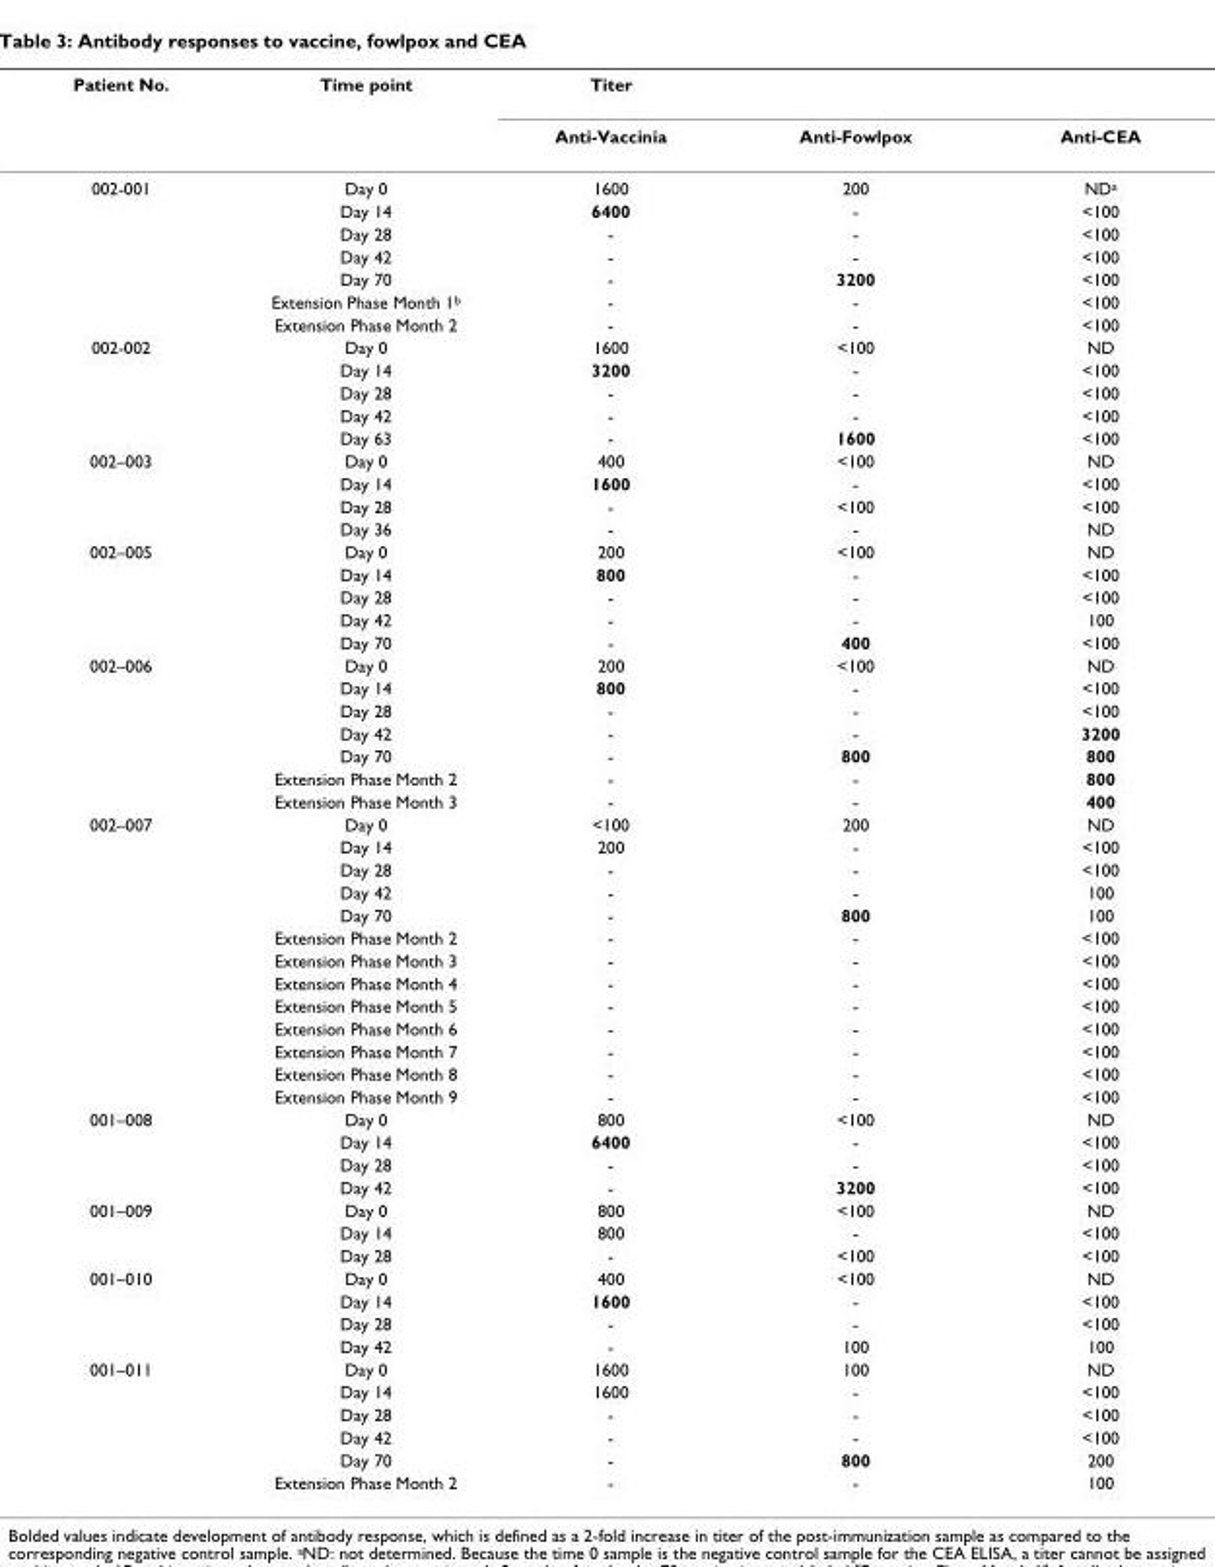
<table><thead><tr><td rowspan="2">Patient No.</td><td rowspan="2">Time point</td><td rowspan="2">Titer Anti-Vaccinia</td><td rowspan="2">Anti-Fowlpox</td><td rowspan="2">Anti-CEA</td></tr><tr></tr></thead><tbody><tr><td rowspan="7">002-001</td><td>Day 0</td><td>1600</td><td>200</td><td>ND<sup>a</sup></td></tr><tr><td>Day 14</td><td>6400</td><td>-</td><td>&lt;100</td></tr><tr><td>Day 28</td><td>-</td><td>-</td><td>&lt;100</td></tr><tr><td>Day 42</td><td>-</td><td>-</td><td>&lt;100</td></tr><tr><td>Day 70</td><td>-</td><td>3200</td><td>&lt;100</td></tr><tr><td>Extension Phase Month 1<sup>b</sup></td><td>-</td><td>-</td><td>&lt;100</td></tr><tr><td>Extension Phase Month 2</td><td>-</td><td>-</td><td>&lt;100</td></tr><tr><td rowspan="5">002-002</td><td>Day 0</td><td>1600</td><td>&lt;100</td><td>ND</td></tr><tr><td>Day 14</td><td>3200</td><td>-</td><td>&lt;100</td></tr><tr><td>Day 28</td><td>-</td><td>-</td><td>&lt;100</td></tr><tr><td>Day 42</td><td>-</td><td>-</td><td>&lt;100</td></tr><tr><td>Day 63</td><td>-</td><td>1600</td><td>&lt;100</td></tr><tr><td rowspan="4">002–003</td><td>Day 0</td><td>400</td><td>&lt;100</td><td>ND</td></tr><tr><td>Day 14</td><td>1600</td><td>-</td><td>&lt;100</td></tr><tr><td>Day 28</td><td>-</td><td>&lt;100</td><td>&lt;100</td></tr><tr><td>Day 36</td><td>-</td><td>-</td><td>ND</td></tr><tr><td rowspan="5">002–005</td><td>Day 0</td><td>200</td><td>&lt;100</td><td>ND</td></tr><tr><td>Day 14</td><td>800</td><td>-</td><td>&lt;100</td></tr><tr><td>Day 28</td><td>-</td><td>-</td><td>&lt;100</td></tr><tr><td>Day 42</td><td>-</td><td>-</td><td>100</td></tr><tr><td>Day 70</td><td>-</td><td>400</td><td>&lt;100</td></tr><tr><td rowspan="7">002–006</td><td>Day 0</td><td>200</td><td>&lt;100</td><td>ND</td></tr><tr><td>Day 14</td><td>800</td><td>-</td><td>&lt;100</td></tr><tr><td>Day 28</td><td>-</td><td>-</td><td>&lt;100</td></tr><tr><td>Day 42</td><td>-</td><td>-</td><td>3200</td></tr><tr><td>Day 70</td><td>-</td><td>800</td><td>800</td></tr><tr><td>Extension Phase Month 2</td><td>-</td><td>-</td><td>800</td></tr><tr><td>Extension Phase Month 3</td><td>-</td><td>-</td><td>400</td></tr><tr><td rowspan="13">002–007</td><td>Day 0</td><td>&lt;100</td><td>200</td><td>ND</td></tr><tr><td>Day 14</td><td>200</td><td>-</td><td>&lt;100</td></tr><tr><td>Day 28</td><td>-</td><td>-</td><td>&lt;100</td></tr><tr><td>Day 42</td><td>-</td><td>-</td><td>100</td></tr><tr><td>Day 70</td><td>-</td><td>800</td><td>100</td></tr><tr><td>Extension Phase Month 2</td><td>-</td><td>-</td><td>&lt;100</td></tr><tr><td>Extension Phase Month 3</td><td>-</td><td>-</td><td>&lt;100</td></tr><tr><td>Extension Phase Month 4</td><td>-</td><td>-</td><td>&lt;100</td></tr><tr><td>Extension Phase Month 5</td><td>-</td><td>-</td><td>&lt;100</td></tr><tr><td>Extension Phase Month 6</td><td>-</td><td>-</td><td>&lt;100</td></tr><tr><td>Extension Phase Month 7</td><td>-</td><td>-</td><td>&lt;100</td></tr><tr><td>Extension Phase Month 8</td><td>-</td><td>-</td><td>&lt;100</td></tr><tr><td>Extension Phase Month 9</td><td>-</td><td>-</td><td>&lt;100</td></tr><tr><td rowspan="4">001–008</td><td>Day 0</td><td>800</td><td>&lt;100</td><td>ND</td></tr><tr><td>Day 14</td><td>6400</td><td>-</td><td>&lt;100</td></tr><tr><td>Day 28</td><td>-</td><td>-</td><td>&lt;100</td></tr><tr><td>Day 42</td><td>-</td><td>3200</td><td>&lt;100</td></tr><tr><td rowspan="3">001–009</td><td>Day 0</td><td>800</td><td>&lt;100</td><td>ND</td></tr><tr><td>Day 14</td><td>800</td><td>-</td><td>&lt;100</td></tr><tr><td>Day 28</td><td>-</td><td>&lt;100</td><td>&lt;100</td></tr><tr><td rowspan="4">001–010</td><td>Day 0</td><td>400</td><td>&lt;100</td><td>ND</td></tr><tr><td>Day 14</td><td>1600</td><td>-</td><td>&lt;100</td></tr><tr><td>Day 28</td><td>-</td><td>-</td><td>&lt;100</td></tr><tr><td>Day 42</td><td>-</td><td>100</td><td>100</td></tr><tr><td rowspan="6">001–011</td><td>Day 0</td><td>1600</td><td>100</td><td>ND</td></tr><tr><td>Day 14</td><td>1600</td><td>-</td><td>&lt;100</td></tr><tr><td>Day 28</td><td>-</td><td>-</td><td>&lt;100</td></tr><tr><td>Day 42</td><td>-</td><td>-</td><td>&lt;100</td></tr><tr><td>Day 70</td><td>-</td><td>800</td><td>200</td></tr><tr><td>Extension Phase Month 2</td><td>-</td><td>-</td><td>100</td></tr></tbody></table>